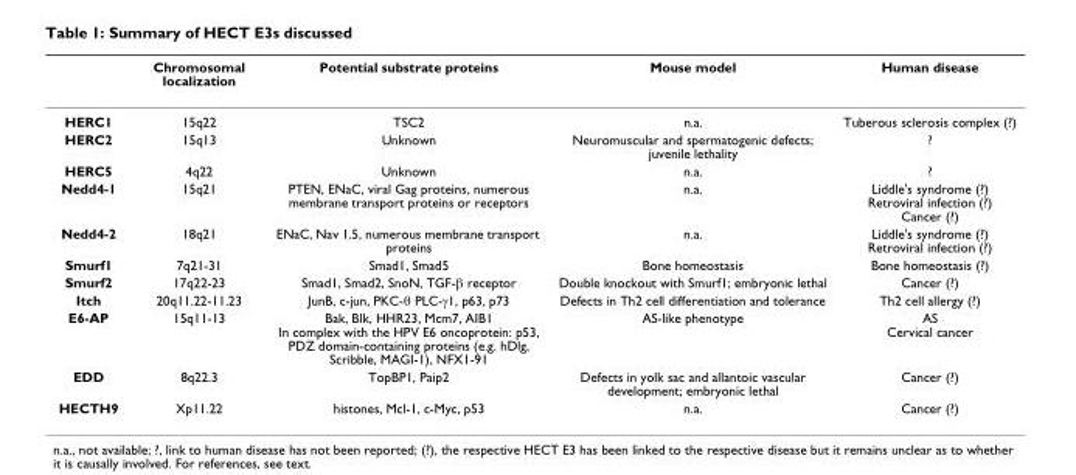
<table><thead><tr><td></td><td>Chromosomal localization</td><td>Potential substrate proteins</td><td>Mouse model</td><td>Human disease</td></tr></thead><tbody><tr><td>HERC1</td><td>15q22</td><td>TSC2</td><td>n.a.</td><td>Tuberous sclerosis complex (?)</td></tr><tr><td>HERC2</td><td>15q13</td><td>Unknown</td><td>Neuromuscular and spermatogenic defects; juvenile lethality</td><td>?</td></tr><tr><td>HERC5</td><td>4q22</td><td>Unknown</td><td>n.a.</td><td>?</td></tr><tr><td>Nedd4-1</td><td>15q21</td><td>PTEN, ENaC, viral Gag proteins, numerous membrane transport proteins or receptors</td><td>n.a.</td><td>Liddle&#x27;s syndrome (?) Retroviral infection (?) Cancer (?)</td></tr><tr><td>Nedd4-2</td><td>18q21</td><td>ENaC, Nav 1.5, numerous membrane transport proteins</td><td>n.a.</td><td>Liddle&#x27;s syndrome (?) Retroviral infection (?)</td></tr><tr><td>Smurf1</td><td>7q21-31</td><td>Smad1, Smad5</td><td>Bone homeostasis</td><td>Bone homeostasis (?)</td></tr><tr><td>Smurf2</td><td>17q22-23</td><td>Smad1, Smad2, SnoN, TGF-β receptor</td><td>Double knockout with Smurf1; embryonic lethal</td><td>Cancer (?)</td></tr><tr><td>Itch</td><td>20q11.22-11.23</td><td>JunB, c-jun, PKC-θ PLC-γ1, p63, p73</td><td>Defects in Th2 cell differentiation and tolerance</td><td>Th2 cell allergy (?)</td></tr><tr><td>E6-AP</td><td>15q11-13</td><td>Bak, Blk, HHR23, Mcm7, AIB1 In complex with the HPV E6 oncoprotein: p53, PDZ domain-containing proteins (e.g. hDlg, Scribble, MAGI-1), NFX1-91</td><td>AS-like phenotype</td><td>AS Cervical cancer</td></tr><tr><td>EDD</td><td>8q22.3</td><td>TopBP1, Paip2</td><td>Defects in yolk sac and allantoic vascular development; embryonic lethal</td><td>Cancer (?)</td></tr><tr><td>HECTH9</td><td>Xp11.22</td><td>histones, Mcl-1, c-Myc, p53</td><td>n.a.</td><td>Cancer (?)</td></tr></tbody></table>